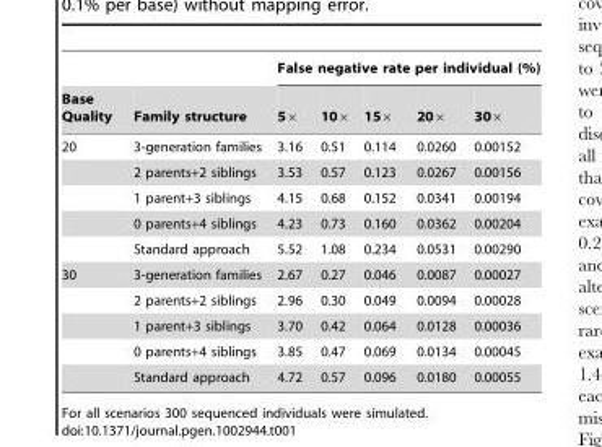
<table><thead><tr><td rowspan="2">Base Quality</td><td rowspan="2">Family structure</td><td colspan="5">False negative rate per individual (%)</td></tr><tr><td>5×</td><td>10×</td><td>15×</td><td>20×</td><td>30×</td></tr></thead><tbody><tr><td rowspan="5">20</td><td>3-generation families</td><td>3.16</td><td>0.51</td><td>0.114</td><td>0.0260</td><td>0.00152</td></tr><tr><td>2 parents+2 siblings</td><td>3.53</td><td>0.57</td><td>0.123</td><td>0.0267</td><td>0.00156</td></tr><tr><td>1 parent+3 siblings</td><td>4.15</td><td>0.68</td><td>0.152</td><td>0.0341</td><td>0.00194</td></tr><tr><td>0 parents+4 siblings</td><td>4.23</td><td>0.73</td><td>0.160</td><td>0.0362</td><td>0.00204</td></tr><tr><td>Standard approach</td><td>5.52</td><td>1.08</td><td>0.234</td><td>0.0531</td><td>0.00290</td></tr><tr><td rowspan="5">30</td><td>3-generation families</td><td>2.67</td><td>0.27</td><td>0.046</td><td>0.0087</td><td>0.00027</td></tr><tr><td>2 parents+2 siblings</td><td>2.96</td><td>0.30</td><td>0.049</td><td>0.0094</td><td>0.00028</td></tr><tr><td>1 parent+3 siblings</td><td>3.70</td><td>0.42</td><td>0.064</td><td>0.0128</td><td>0.00036</td></tr><tr><td>0 parents+4 siblings</td><td>3.85</td><td>0.47</td><td>0.069</td><td>0.0134</td><td>0.00045</td></tr><tr><td>Standard approach</td><td>4.72</td><td>0.57</td><td>0.096</td><td>0.0180</td><td>0.00055</td></tr></tbody></table>